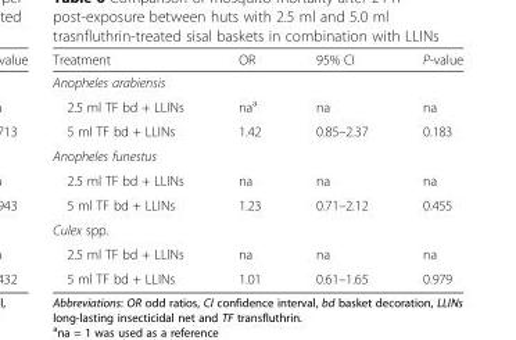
<table><thead><tr><td>Treatment</td><td>OR</td><td>95% CI</td><td>P-value</td></tr></thead><tbody><tr><td colspan="4">Anopheles arabiensis</td></tr><tr><td>2.5 ml TF bd + LLINs</td><td>na<sup>a</sup></td><td>na</td><td>na</td></tr><tr><td>5 ml TF bd + LLINs</td><td>1.42</td><td>0.85–2.37</td><td>0.183</td></tr><tr><td colspan="4">Anopheles funestus</td></tr><tr><td>2.5 ml TF bd + LLINs</td><td>na</td><td>na</td><td>na</td></tr><tr><td>5 ml TF bd + LLINs</td><td>1.23</td><td>0.71–2.12</td><td>0.455</td></tr><tr><td colspan="4">Culex spp.</td></tr><tr><td>2.5 ml TF bd + LLINs</td><td>na</td><td>na</td><td>na</td></tr><tr><td>5 ml TF bd + LLINs</td><td>1.01</td><td>0.61–1.65</td><td>0.979</td></tr></tbody></table>